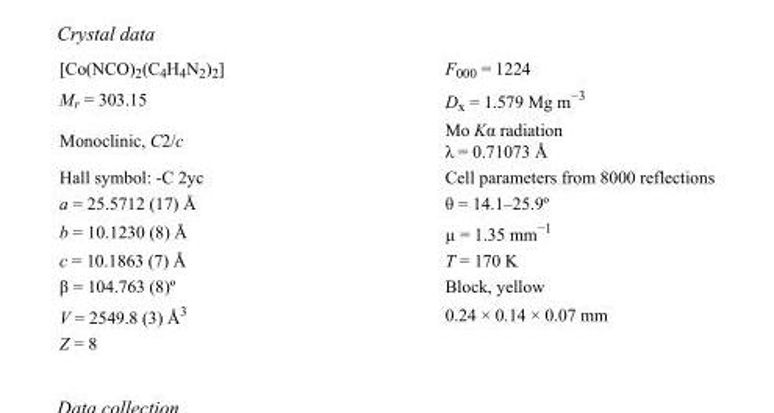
<table><tbody><tr><td>[Co(NCO)<sub>2</sub>(C<sub>4</sub>H<sub>4</sub>N<sub>2</sub>)<sub>2</sub>]</td><td>F000 = 1224</td></tr><tr><td>M<sub>r</sub> = 303.15</td><td>D<sub>x</sub> = 1.579 Mg m<sup>−3</sup></td></tr><tr><td>Monoclinic, C2/c</td><td>Mo Kα radiation λ = 0.71073 Å</td></tr><tr><td>Hall symbol: -C 2yc</td><td>Cell parameters from 8000 reflections</td></tr><tr><td>a = 25.5712 (17) Å</td><td>θ = 14.1–25.9º</td></tr><tr><td>b = 10.1230 (8) Å</td><td>µ = 1.35 mm<sup>−1</sup></td></tr><tr><td>c = 10.1863 (7) Å</td><td>T = 170 K</td></tr><tr><td>β = 104.763 (8)º</td><td>Block, yellow</td></tr><tr><td>V = 2549.8 (3) Å<sup>3</sup></td><td>0.24 × 0.14 × 0.07 mm</td></tr><tr><td>Z = 8</td><td></td></tr></tbody></table>